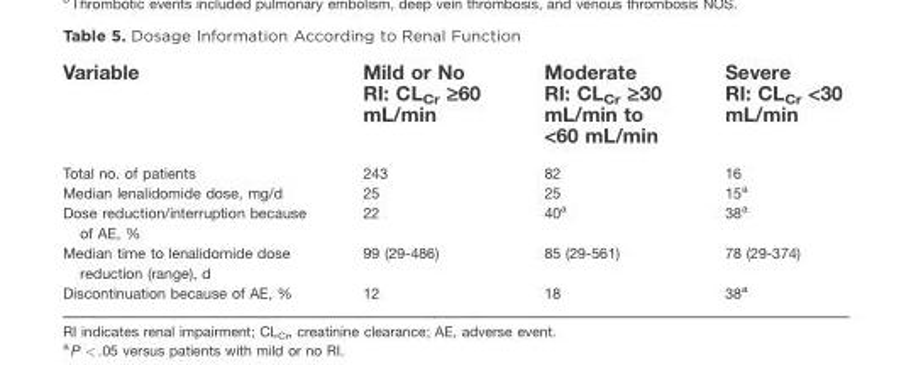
<table><thead><tr><td>Variable</td><td>Mild or No RI: CLCr ‡60 mL/min</td><td>Moderate RI: CLCr ‡30 mL/min to &lt;60 mL/min</td><td>Severe RI: CL<sub>Cr</sub> &lt;30 mL/min</td></tr></thead><tbody><tr><td>Total no. of patients</td><td>243</td><td>82</td><td>16</td></tr><tr><td>Median lenalidomide dose, mg/d</td><td>25</td><td>25</td><td>15<sup>a</sup></td></tr><tr><td>Dose reduction/interruption because of AE, %</td><td>22</td><td>40<sup>a</sup></td><td>38<sup>a</sup></td></tr><tr><td>Median time to lenalidomide dose reduction (range), d</td><td>99 (29-486)</td><td>85 (29-561)</td><td>78 (29-374)</td></tr><tr><td>Discontinuation because of AE, %</td><td>12</td><td>18</td><td>38<sup>a</sup></td></tr></tbody></table>